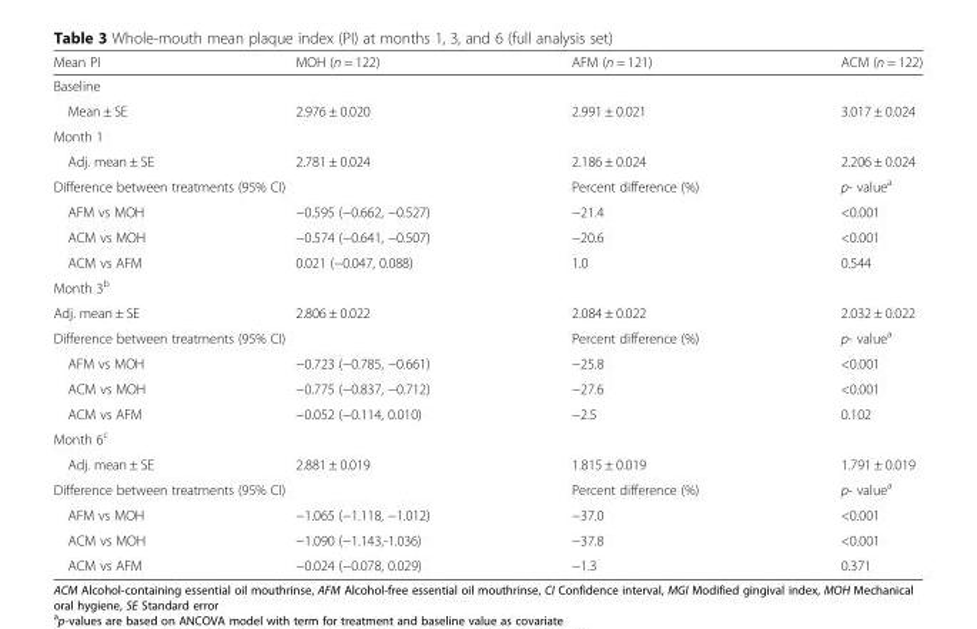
<table><thead><tr><td>Mean PI</td><td>MOH (n = 122)</td><td>AFM (n = 121)</td><td>ACM (n = 122)</td></tr></thead><tbody><tr><td colspan="4">Baseline</td></tr><tr><td>Mean ± SE</td><td>2.976 ± 0.020</td><td>2.991 ± 0.021</td><td>3.017 ± 0.024</td></tr><tr><td colspan="4">Month 1</td></tr><tr><td>Adj. mean ± SE</td><td>2.781 ± 0.024</td><td>2.186 ± 0.024</td><td>2.206 ± 0.024</td></tr><tr><td colspan="2">Difference between treatments (95% CI)</td><td>Percent difference (%)</td><td>p- value<sup>a</sup></td></tr><tr><td>AFM vs MOH</td><td>−0.595 (−0.662, −0.527)</td><td>−21.4</td><td>&lt;0.001</td></tr><tr><td>ACM vs MOH</td><td>−0.574 (−0.641, −0.507)</td><td>−20.6</td><td>&lt;0.001</td></tr><tr><td>ACM vs AFM</td><td>0.021 (−0.047, 0.088)</td><td>1.0</td><td>0.544</td></tr><tr><td colspan="4">Month 3<sup>b</sup></td></tr><tr><td>Adj. mean ± SE</td><td>2.806 ± 0.022</td><td>2.084 ± 0.022</td><td>2.032 ± 0.022</td></tr><tr><td colspan="2">Difference between treatments (95% CI)</td><td>Percent difference (%)</td><td>p- value<sup>a</sup></td></tr><tr><td>AFM vs MOH</td><td>−0.723 (−0.785, −0.661)</td><td>−25.8</td><td>&lt;0.001</td></tr><tr><td>ACM vs MOH</td><td>−0.775 (−0.837, −0.712)</td><td>−27.6</td><td>&lt;0.001</td></tr><tr><td>ACM vs AFM</td><td>−0.052 (−0.114, 0.010)</td><td>−2.5</td><td>0.102</td></tr><tr><td colspan="4">Month 6<sup>c</sup></td></tr><tr><td>Adj. mean ± SE</td><td>2.881 ± 0.019</td><td>1.815 ± 0.019</td><td>1.791 ± 0.019</td></tr><tr><td colspan="2">Difference between treatments (95% CI)</td><td>Percent difference (%)</td><td>p- value<sup>a</sup></td></tr><tr><td>AFM vs MOH</td><td>−1.065 (−1.118, −1.012)</td><td>−37.0</td><td>&lt;0.001</td></tr><tr><td>ACM vs MOH</td><td>−1.090 (−1.143,-1.036)</td><td>−37.8</td><td>&lt;0.001</td></tr><tr><td>ACM vs AFM</td><td>−0.024 (−0.078, 0.029)</td><td>−1.3</td><td>0.371</td></tr></tbody></table>